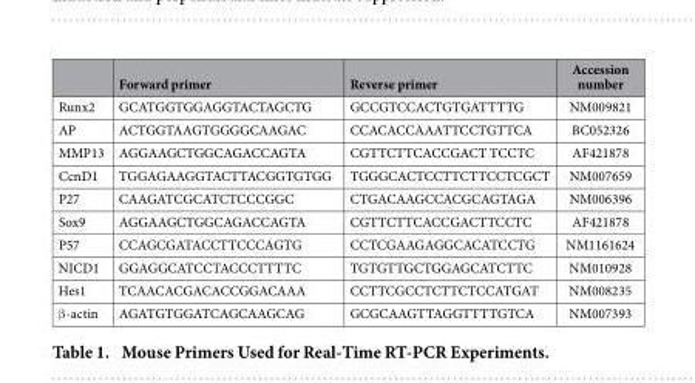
<table><thead><tr><td></td><td>Forward primer</td><td>Reverse primer</td><td>Accession number</td></tr></thead><tbody><tr><td>Runx2</td><td>GCATGGTGGAGGTACTAGCTG</td><td>GCCGTCCACTGTGATTTTG</td><td>NM009821</td></tr><tr><td>AP</td><td>ACTGGTAAGTGGGGCAAGAC</td><td>CCACACCAAATTCCTGTTCA</td><td>BC052326</td></tr><tr><td>MMP13</td><td>AGGAAGCTGGCAGACCAGTA</td><td>CGTTCTTCACCGACT TCCTC</td><td>AF421878</td></tr><tr><td>CcnD1</td><td>TGGAGAAGGTACTTACGGTGTGG</td><td>TGGGCACTCCTTCTTCCTCGCT</td><td>NM007659</td></tr><tr><td>P27</td><td>CAAGATCGCATCTCCCGGC</td><td>CTGACAAGCCACGCAGTAGA</td><td>NM006396</td></tr><tr><td>Sox9</td><td>AGGAAGCTGGCAGACCAGTA</td><td>CGTTCTTCACCGACTTCCTC</td><td>AF421878</td></tr><tr><td>P57</td><td>CCAGCGATACCTTCCCAGTG</td><td>CCTCGAAGAGGCACATCCTG</td><td>NM1161624</td></tr><tr><td>NICD1</td><td>GGAGGCATCCTACCCTTTTC</td><td>TGTGTTGCTGGAGCATCTTC</td><td>NM010928</td></tr><tr><td>Hes1</td><td>TCAACACGACACCGGACAAA</td><td>CCTTCGCCTCTTCTCCATGAT</td><td>NM008235</td></tr><tr><td>β -actin</td><td>AGATGTGGATCAGCAAGCAG</td><td>GCGCAAGTTAGGTTTTGTCA</td><td>NM007393</td></tr></tbody></table>